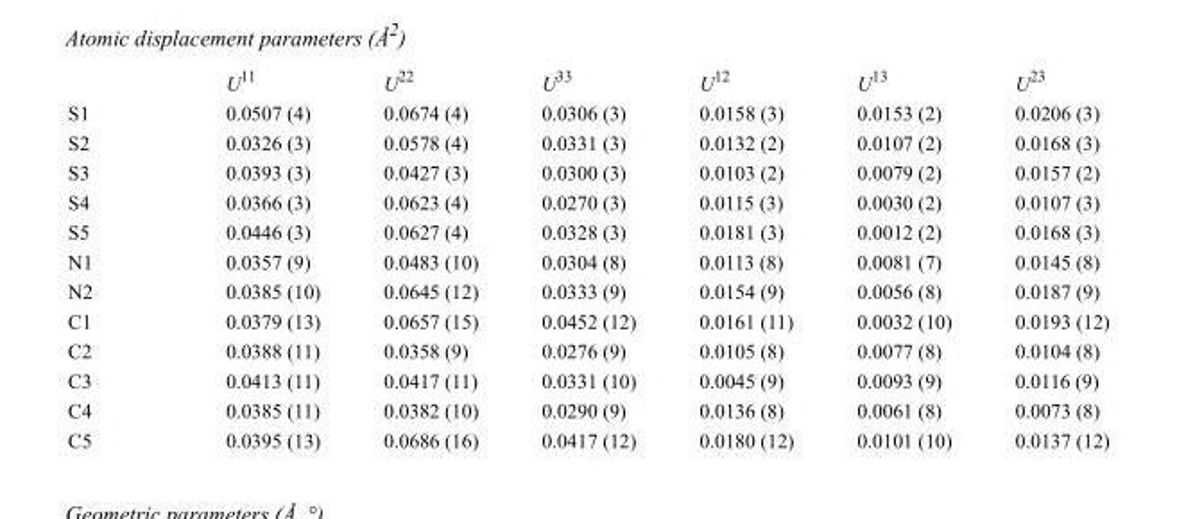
<table><thead><tr><td></td><td>U<sup>11</sup></td><td>U<sup>22</sup></td><td>U<sup>33</sup></td><td>U<sup>12</sup></td><td>U<sup>13</sup></td><td>U<sup>23</sup></td></tr></thead><tbody><tr><td>S1</td><td>0.0507 (4)</td><td>0.0674 (4)</td><td>0.0306 (3)</td><td>0.0158 (3)</td><td>0.0153 (2)</td><td>0.0206 (3)</td></tr><tr><td>S2</td><td>0.0326 (3)</td><td>0.0578 (4)</td><td>0.0331 (3)</td><td>0.0132 (2)</td><td>0.0107 (2)</td><td>0.0168 (3)</td></tr><tr><td>S3</td><td>0.0393 (3)</td><td>0.0427 (3)</td><td>0.0300 (3)</td><td>0.0103 (2)</td><td>0.0079 (2)</td><td>0.0157 (2)</td></tr><tr><td>S4</td><td>0.0366 (3)</td><td>0.0623 (4)</td><td>0.0270 (3)</td><td>0.0115 (3)</td><td>0.0030 (2)</td><td>0.0107 (3)</td></tr><tr><td>S5</td><td>0.0446 (3)</td><td>0.0627 (4)</td><td>0.0328 (3)</td><td>0.0181 (3)</td><td>0.0012 (2)</td><td>0.0168 (3)</td></tr><tr><td>N1</td><td>0.0357 (9)</td><td>0.0483 (10)</td><td>0.0304 (8)</td><td>0.0113 (8)</td><td>0.0081 (7)</td><td>0.0145 (8)</td></tr><tr><td>N2</td><td>0.0385 (10)</td><td>0.0645 (12)</td><td>0.0333 (9)</td><td>0.0154 (9)</td><td>0.0056 (8)</td><td>0.0187 (9)</td></tr><tr><td>C1</td><td>0.0379 (13)</td><td>0.0657 (15)</td><td>0.0452 (12)</td><td>0.0161 (11)</td><td>0.0032 (10)</td><td>0.0193 (12)</td></tr><tr><td>C2</td><td>0.0388 (11)</td><td>0.0358 (9)</td><td>0.0276 (9)</td><td>0.0105 (8)</td><td>0.0077 (8)</td><td>0.0104 (8)</td></tr><tr><td>C3</td><td>0.0413 (11)</td><td>0.0417 (11)</td><td>0.0331 (10)</td><td>0.0045 (9)</td><td>0.0093 (9)</td><td>0.0116 (9)</td></tr><tr><td>C4</td><td>0.0385 (11)</td><td>0.0382 (10)</td><td>0.0290 (9)</td><td>0.0136 (8)</td><td>0.0061 (8)</td><td>0.0073 (8)</td></tr><tr><td>C5</td><td>0.0395 (13)</td><td>0.0686 (16)</td><td>0.0417 (12)</td><td>0.0180 (12)</td><td>0.0101 (10)</td><td>0.0137 (12)</td></tr></tbody></table>